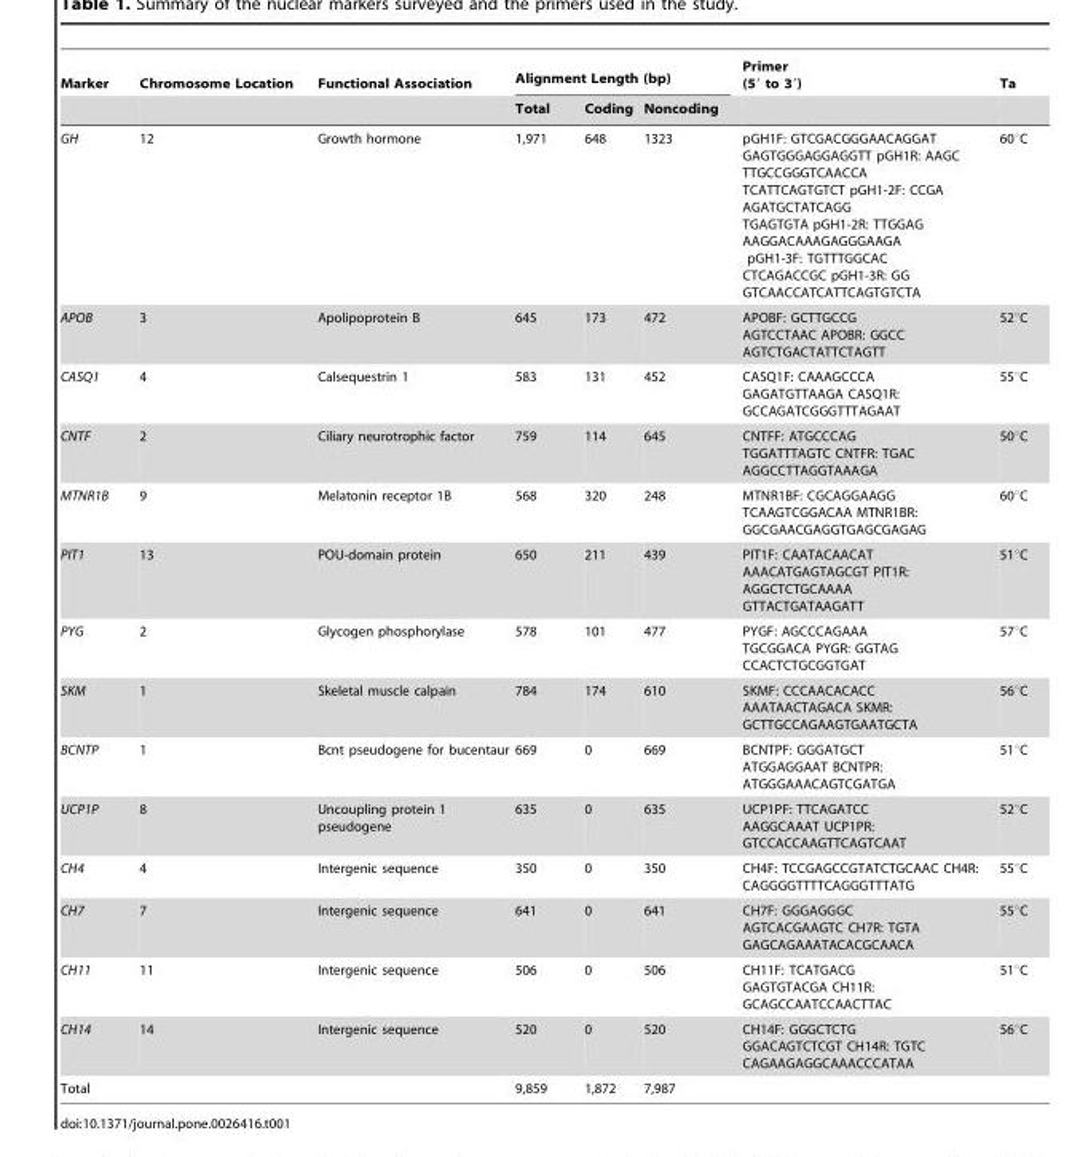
<table><thead><tr><td rowspan="2">Marker</td><td rowspan="2">Chromosome Location</td><td rowspan="2">Functional Association</td><td colspan="3">Alignment Length (bp)</td><td rowspan="2">Primer (5′ to 3′)</td><td rowspan="2">Ta</td></tr><tr><td>Total</td><td>Coding</td><td>Noncoding</td></tr></thead><tbody><tr><td>GH</td><td>12</td><td>Growth hormone</td><td>1,971</td><td>648</td><td>1323</td><td>pGH1F: GTCGACGGGAACAGGAT GAGTGGGAGGAGGTT pGH1R: AAGC TTGCCGGGTCAACCA TCATTCAGTGTCT pGH1-2F: CCGA AGATGCTATCAGG TGAGTGTA pGH1-2R: TTGGAG AAGGACAAAGAGGGAAGA pGH1-3F: TGTTTGGCAC CTCAGACCGC pGH1-3R: GG GTCAACCATCATTCAGTGTCTA</td><td>60°C</td></tr><tr><td>APOB</td><td>3</td><td>Apolipoprotein B</td><td>645</td><td>173</td><td>472</td><td>APOBF: GCTTGCCG AGTCCTAAC APOBR: GGCC AGTCTGACTATTCTAGTT</td><td>52°C</td></tr><tr><td>CASQ1</td><td>4</td><td>Calsequestrin 1</td><td>583</td><td>131</td><td>452</td><td>CASQ1F: CAAAGCCCA GAGATGTTAAGA CASQ1R: GCCAGATCGGGTTTAGAAT</td><td>55°C</td></tr><tr><td>CNTF</td><td>2</td><td>Ciliary neurotrophic factor</td><td>759</td><td>114</td><td>645</td><td>CNTFF: ATGCCCAG TGGATTTAGTC CNTFR: TGAC AGGCCTTAGGTAAAGA</td><td>50°C</td></tr><tr><td>MTNR1B</td><td>9</td><td>Melatonin receptor 1B</td><td>568</td><td>320</td><td>248</td><td>MTNR1BF: CGCAGGAAGG TCAAGTCGGACAA MTNR1BR: GGCGAACGAGGTGAGCGAGAG</td><td>60°C</td></tr><tr><td>PIT1</td><td>13</td><td>POU-domain protein</td><td>650</td><td>211</td><td>439</td><td>PIT1F: CAATACAACAT AAACATGAGTAGCGT PIT1R: AGGCTCTGCAAAA GTTACTGATAAGATT</td><td>51°C</td></tr><tr><td>PYG</td><td>2</td><td>Glycogen phosphorylase</td><td>578</td><td>101</td><td>477</td><td>PYGF: AGCCCAGAAA TGCGGACA PYGR: GGTAG CCACTCTGCGGTGAT</td><td>57°C</td></tr><tr><td>SKM</td><td>1</td><td>Skeletal muscle calpain</td><td>784</td><td>174</td><td>610</td><td>SKMF: CCCAACACACC AAATAACTAGACA SKMR: GCTTGCCAGAAGTGAATGCTA</td><td>56°C</td></tr><tr><td>BCNTP</td><td>1</td><td>Bcnt pseudogene for bucentaur</td><td>669</td><td>0</td><td>669</td><td>BCNTPF: GGGATGCT ATGGAGGAAT BCNTPR: ATGGGAAACAGTCGATGA</td><td>51°C</td></tr><tr><td>UCP1P</td><td>8</td><td>Uncoupling protein 1 pseudogene</td><td>635</td><td>0</td><td>635</td><td>UCP1PF: TTCAGATCC AAGGCAAAT UCP1PR: GTCCACCAAGTTCAGTCAAT</td><td>52°C</td></tr><tr><td>CH4</td><td>4</td><td>Intergenic sequence</td><td>350</td><td>0</td><td>350</td><td>CH4F: TCCGAGCCGTATCTGCAAC CH4R: CAGGGGTTTTCAGGGTTTATG</td><td>55°C</td></tr><tr><td>CH7</td><td>7</td><td>Intergenic sequence</td><td>641</td><td>0</td><td>641</td><td>CH7F: GGGAGGGC AGTCACGAAGTC CH7R: TGTA GAGCAGAAATACACGCAACA</td><td>55°C</td></tr><tr><td>CH11</td><td>11</td><td>Intergenic sequence</td><td>506</td><td>0</td><td>506</td><td>CH11F: TCATGACG GAGTGTACGA CH11R: GCAGCCAATCCAACTTAC</td><td>51°C</td></tr><tr><td>CH14</td><td>14</td><td>Intergenic sequence</td><td>520</td><td>0</td><td>520</td><td>CH14F: GGGCTCTG GGACAGTCTCGT CH14R: TGTC CAGAAGAGGCAAACCCATAA</td><td>56°C</td></tr><tr><td>Total</td><td></td><td></td><td>9,859</td><td>1,872</td><td>7,987</td><td></td><td></td></tr></tbody></table>